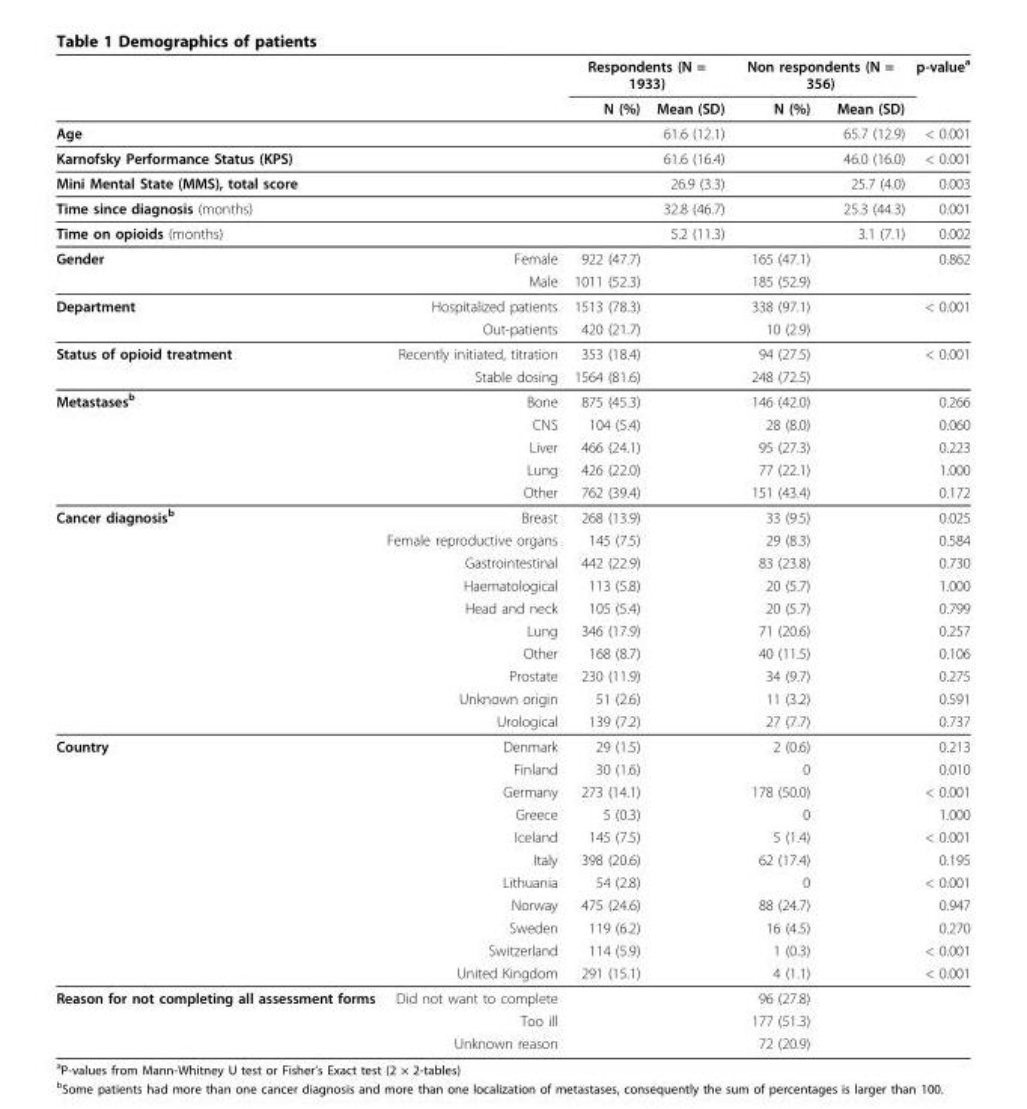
<table><thead><tr><td rowspan="2"></td><td rowspan="2"></td><td colspan="2">Respondents (N = 1933)</td><td colspan="2">Non respondents (N = 356)</td><td rowspan="2">p-value<sup>a</sup></td></tr><tr><td>N (%)</td><td>Mean (SD)</td><td>N (%)</td><td>Mean (SD)</td></tr></thead><tbody><tr><td colspan="2">Age</td><td></td><td>61.6 (12.1)</td><td></td><td>65.7 (12.9)</td><td>&lt; 0.001</td></tr><tr><td colspan="2">Karnofsky Performance Status (KPS)</td><td></td><td>61.6 (16.4)</td><td></td><td>46.0 (16.0)</td><td>&lt; 0.001</td></tr><tr><td colspan="2">Mini Mental State (MMS), total score</td><td></td><td>26.9 (3.3)</td><td></td><td>25.7 (4.0)</td><td>0.003</td></tr><tr><td colspan="2">Time since diagnosis (months)</td><td></td><td>32.8 (46.7)</td><td></td><td>25.3 (44.3)</td><td>0.001</td></tr><tr><td colspan="2">Time on opioids (months)</td><td></td><td>5.2 (11.3)</td><td></td><td>3.1 (7.1)</td><td>0.002</td></tr><tr><td rowspan="2">Gender</td><td>Female</td><td>922 (47.7)</td><td></td><td>165 (47.1)</td><td></td><td>0.862</td></tr><tr><td>Male</td><td>1011 (52.3)</td><td></td><td>185 (52.9)</td><td></td><td></td></tr><tr><td rowspan="2">Department</td><td>Hospitalized patients</td><td>1513 (78.3)</td><td></td><td>338 (97.1)</td><td></td><td>&lt; 0.001</td></tr><tr><td>Out-patients</td><td>420 (21.7)</td><td></td><td>10 (2.9)</td><td></td><td></td></tr><tr><td rowspan="2">Status of opioid treatment</td><td>Recently initiated, titration</td><td>353 (18.4)</td><td></td><td>94 (27.5)</td><td></td><td>&lt; 0.001</td></tr><tr><td>Stable dosing</td><td>1564 (81.6)</td><td></td><td>248 (72.5)</td><td></td><td></td></tr><tr><td rowspan="5">Metastases<sup>b</sup></td><td>Bone</td><td>875 (45.3)</td><td></td><td>146 (42.0)</td><td></td><td>0.266</td></tr><tr><td>CNS</td><td>104 (5.4)</td><td></td><td>28 (8.0)</td><td></td><td>0.060</td></tr><tr><td>Liver</td><td>466 (24.1)</td><td></td><td>95 (27.3)</td><td></td><td>0.223</td></tr><tr><td>Lung</td><td>426 (22.0)</td><td></td><td>77 (22.1)</td><td></td><td>1.000</td></tr><tr><td>Other</td><td>762 (39.4)</td><td></td><td>151 (43.4)</td><td></td><td>0.172</td></tr><tr><td rowspan="10">Cancer diagnosis<sup>b</sup></td><td>Breast</td><td>268 (13.9)</td><td></td><td>33 (9.5)</td><td></td><td>0.025</td></tr><tr><td>Female reproductive organs</td><td>145 (7.5)</td><td></td><td>29 (8.3)</td><td></td><td>0.584</td></tr><tr><td>Gastrointestinal</td><td>442 (22.9)</td><td></td><td>83 (23.8)</td><td></td><td>0.730</td></tr><tr><td>Haematological</td><td>113 (5.8)</td><td></td><td>20 (5.7)</td><td></td><td>1.000</td></tr><tr><td>Head and neck</td><td>105 (5.4)</td><td></td><td>20 (5.7)</td><td></td><td>0.799</td></tr><tr><td>Lung</td><td>346 (17.9)</td><td></td><td>71 (20.6)</td><td></td><td>0.257</td></tr><tr><td>Other</td><td>168 (8.7)</td><td></td><td>40 (11.5)</td><td></td><td>0.106</td></tr><tr><td>Prostate</td><td>230 (11.9)</td><td></td><td>34 (9.7)</td><td></td><td>0.275</td></tr><tr><td>Unknown origin</td><td>51 (2.6)</td><td></td><td>11 (3.2)</td><td></td><td>0.591</td></tr><tr><td>Urological</td><td>139 (7.2)</td><td></td><td>27 (7.7)</td><td></td><td>0.737</td></tr><tr><td rowspan="11">Country</td><td>Denmark</td><td>29 (1.5)</td><td></td><td>2 (0.6)</td><td></td><td>0.213</td></tr><tr><td>Finland</td><td>30 (1.6)</td><td></td><td>0</td><td></td><td>0.010</td></tr><tr><td>Germany</td><td>273 (14.1)</td><td></td><td>178 (50.0)</td><td></td><td>&lt; 0.001</td></tr><tr><td>Greece</td><td>5 (0.3)</td><td></td><td>0</td><td></td><td>1.000</td></tr><tr><td>Iceland</td><td>145 (7.5)</td><td></td><td>5 (1.4)</td><td></td><td>&lt; 0.001</td></tr><tr><td>Italy</td><td>398 (20.6)</td><td></td><td>62 (17.4)</td><td></td><td>0.195</td></tr><tr><td>Lithuania</td><td>54 (2.8)</td><td></td><td>0</td><td></td><td>&lt; 0.001</td></tr><tr><td>Norway</td><td>475 (24.6)</td><td></td><td>88 (24.7)</td><td></td><td>0.947</td></tr><tr><td>Sweden</td><td>119 (6.2)</td><td></td><td>16 (4.5)</td><td></td><td>0.270</td></tr><tr><td>Switzerland</td><td>114 (5.9)</td><td></td><td>1 (0.3)</td><td></td><td>&lt; 0.001</td></tr><tr><td>United Kingdom</td><td>291 (15.1)</td><td></td><td>4 (1.1)</td><td></td><td>&lt; 0.001</td></tr><tr><td rowspan="3">Reason for not completing all assessment forms</td><td>Did not want to complete</td><td></td><td></td><td>96 (27.8)</td><td></td><td></td></tr><tr><td>Too ill</td><td></td><td></td><td>177 (51.3)</td><td></td><td></td></tr><tr><td>Unknown reason</td><td></td><td></td><td>72 (20.9)</td><td></td><td></td></tr></tbody></table>